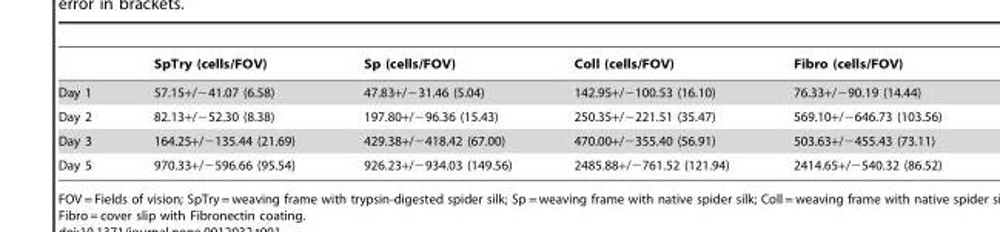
<table><thead><tr><td></td><td>SpTry (cells/FOV)</td><td>Sp (cells/FOV)</td><td>Coll (cells/FOV)</td><td>Fibro (cells/FOV)</td></tr></thead><tbody><tr><td>Day 1</td><td>57.15+/−41.07 (6.58)</td><td>47.83+/−31.46 (5.04)</td><td>142.95+/−100.53 (16.10)</td><td>76.33+/−90.19 (14.44)</td></tr><tr><td>Day 2</td><td>82.13+/−52.30 (8.38)</td><td>197.80+/−96.36 (15.43)</td><td>250.35+/−221.51 (35.47)</td><td>569.10+/−646.73 (103.56)</td></tr><tr><td>Day 3</td><td>164.25+/−135.44 (21.69)</td><td>429.38+/−418.42 (67.00)</td><td>470.00+/−355.40 (56.91)</td><td>503.63+/−455.43 (73.11)</td></tr><tr><td>Day 5</td><td>970.33+/−596.66 (95.54)</td><td>926.23+/−934.03 (149.56)</td><td>2485.88+/−761.52 (121.94)</td><td>2414.65+/−540.32 (86.52)</td></tr></tbody></table>